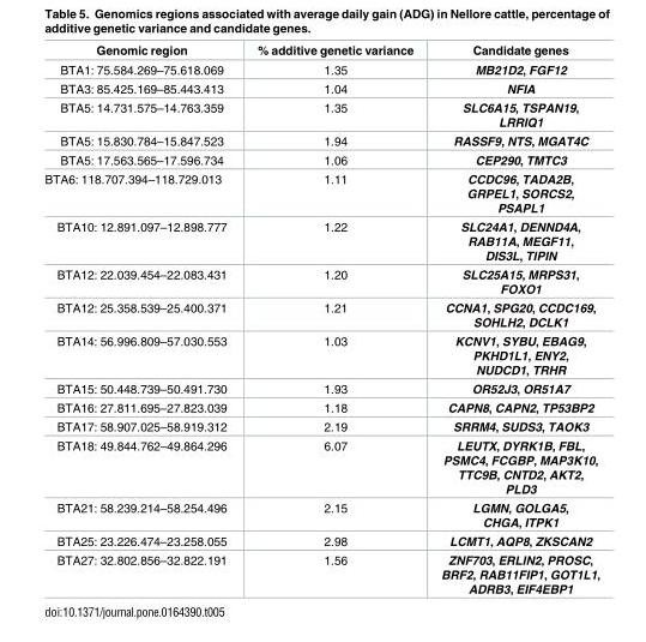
<table><thead><tr><td>Genomic region</td><td>% additive genetic variance</td><td>Candidate genes</td></tr></thead><tbody><tr><td>BTA1: 75.584.269–75.618.069</td><td>1.35</td><td>MB21D2, FGF12</td></tr><tr><td>BTA3: 85.425.169–85.443.413</td><td>1.04</td><td>NFIA</td></tr><tr><td>BTA5: 14.731.575–14.763.359</td><td>1.35</td><td>SLC6A15, TSPAN19, LRRIQ1</td></tr><tr><td>BTA5: 15.830.784–15.847.523</td><td>1.94</td><td>RASSF9, NTS, MGAT4C</td></tr><tr><td>BTA5: 17.563.565–17.596.734</td><td>1.06</td><td>CEP290, TMTC3</td></tr><tr><td>BTA6: 118.707.394–118.729.013</td><td>1.11</td><td>CCDC96, TADA2B, GRPEL1, SORCS2, PSAPL1</td></tr><tr><td>BTA10: 12.891.097–12.898.777</td><td>1.22</td><td>SLC24A1, DENND4A, RAB11A, MEGF11, DIS3L, TIPIN</td></tr><tr><td>BTA12: 22.039.454–22.083.431</td><td>1.20</td><td>SLC25A15, MRPS31, FOXO1</td></tr><tr><td>BTA12: 25.358.539–25.400.371</td><td>1.21</td><td>CCNA1, SPG20, CCDC169, SOHLH2, DCLK1</td></tr><tr><td>BTA14: 56.996.809–57.030.553</td><td>1.03</td><td>KCNV1, SYBU, EBAG9, PKHD1L1, ENY2, NUDCD1, TRHR</td></tr><tr><td>BTA15: 50.448.739–50.491.730</td><td>1.93</td><td>OR52J3, OR51A7</td></tr><tr><td>BTA16: 27.811.695–27.823.039</td><td>1.18</td><td>CAPN8, CAPN2, TP53BP2</td></tr><tr><td>BTA17: 58.907.025–58.919.312</td><td>2.19</td><td>SRRM4, SUDS3, TAOK3</td></tr><tr><td>BTA18: 49.844.762–49.864.296</td><td>6.07</td><td>LEUTX, DYRK1B, FBL, PSMC4, FCGBP, MAP3K10, TTC9B, CNTD2, AKT2, PLD3</td></tr><tr><td>BTA21: 58.239.214–58.254.496</td><td>2.15</td><td>LGMN, GOLGA5, CHGA, ITPK1</td></tr><tr><td>BTA25: 23.226.474–23.258.055</td><td>2.98</td><td>LCMT1, AQP8, ZKSCAN2</td></tr><tr><td>BTA27: 32.802.856–32.822.191</td><td>1.56</td><td>ZNF703, ERLIN2, PROSC, BRF2, RAB11FIP1, GOT1L1, ADRB3, EIF4EBP1</td></tr></tbody></table>